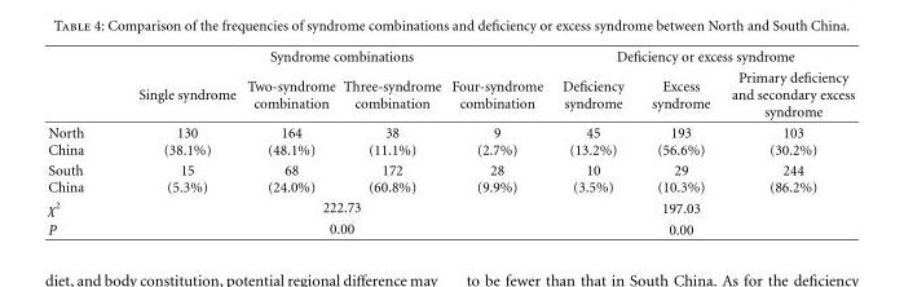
<table><thead><tr><td rowspan="2"></td><td colspan="4">Syndrome combinations</td><td colspan="3">Deficiency or excess syndrome</td></tr><tr><td>Single syndrome</td><td>Two-syndrome combination</td><td>Three-syndrome combination</td><td>Four-syndrome combination</td><td>Deficiency syndrome</td><td>Excess syndrome</td><td>Primary deficiency and secondary excess syndrome</td></tr></thead><tbody><tr><td>North China</td><td>130 (38.1%)</td><td>164 (48.1%)</td><td>38 (11.1%)</td><td>9 (2.7%)</td><td>45 (13.2%)</td><td>193 (56.6%)</td><td>103 (30.2%)</td></tr><tr><td>South China</td><td>15 (5.3%)</td><td>68 (24.0%)</td><td>172 (60.8%)</td><td>28 (9.9%)</td><td>10 (3.5%)</td><td>29 (10.3%)</td><td>244 (86.2%)</td></tr><tr><td>χ<sup>2</sup></td><td colspan="4">222.73</td><td></td><td>197.03</td><td></td></tr><tr><td>P</td><td colspan="4">0.00</td><td></td><td>0.00</td><td></td></tr></tbody></table>